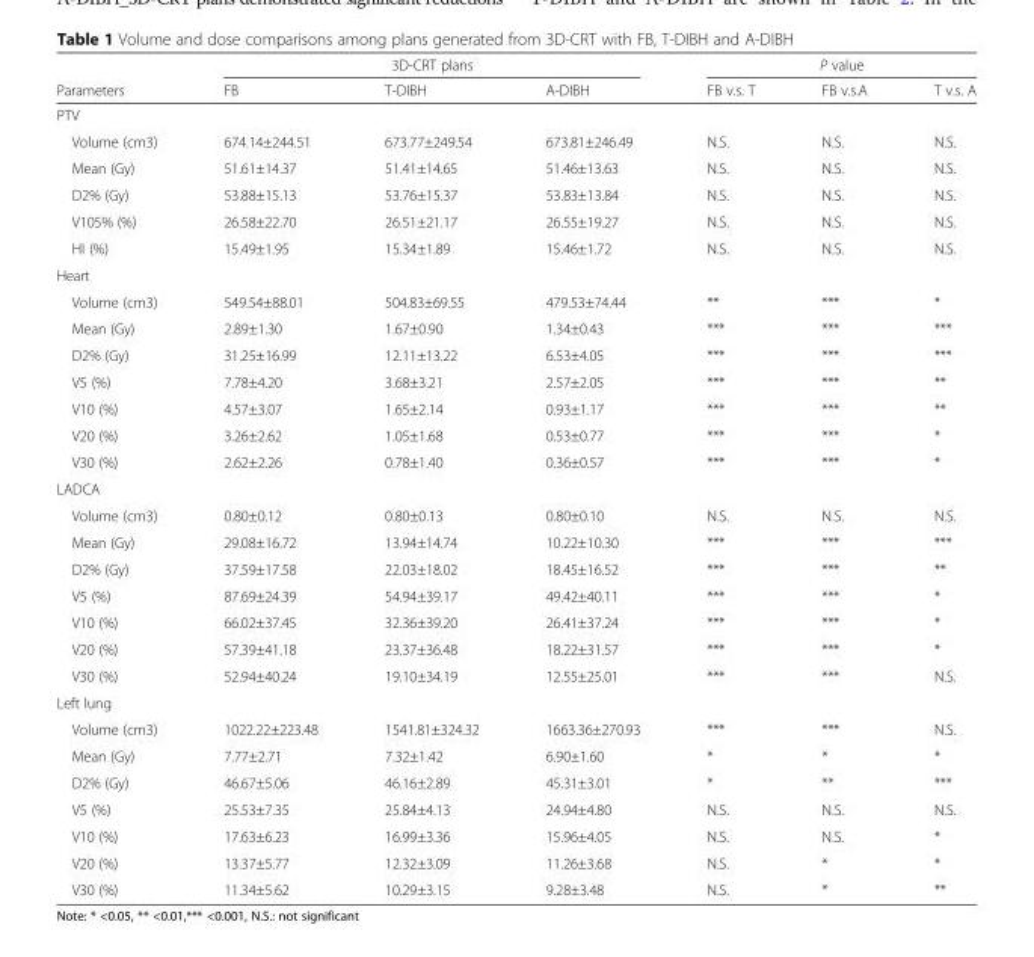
<table><thead><tr><td rowspan="2">Parameters</td><td colspan="3">3D-CRT plans</td><td colspan="3">P value</td></tr><tr><td>FB</td><td>T-DIBH</td><td>A-DIBH</td><td>FB v.s. T</td><td>FB v.s.A</td><td>T v.s. A</td></tr></thead><tbody><tr><td colspan="7">PTV</td></tr><tr><td>Volume (cm3)</td><td>674.14±244.51</td><td>673.77±249.54</td><td>673.81±246.49</td><td>N.S.</td><td>N.S.</td><td>N.S.</td></tr><tr><td>Mean (Gy)</td><td>51.61±14.37</td><td>51.41±14.65</td><td>51.46±13.63</td><td>N.S.</td><td>N.S.</td><td>N.S.</td></tr><tr><td>D2% (Gy)</td><td>53.88±15.13</td><td>53.76±15.37</td><td>53.83±13.84</td><td>N.S.</td><td>N.S.</td><td>N.S.</td></tr><tr><td>V105% (%)</td><td>26.58±22.70</td><td>26.51±21.17</td><td>26.55±19.27</td><td>N.S.</td><td>N.S.</td><td>N.S.</td></tr><tr><td>HI (%)</td><td>15.49±1.95</td><td>15.34±1.89</td><td>15.46±1.72</td><td>N.S.</td><td>N.S.</td><td>N.S.</td></tr><tr><td colspan="7">Heart</td></tr><tr><td>Volume (cm3)</td><td>549.54±88.01</td><td>504.83±69.55</td><td>479.53±74.44</td><td>**</td><td>***</td><td>*</td></tr><tr><td>Mean (Gy)</td><td>2.89±1.30</td><td>1.67±0.90</td><td>1.34±0.43</td><td>***</td><td>***</td><td>***</td></tr><tr><td>D2% (Gy)</td><td>31.25±16.99</td><td>12.11±13.22</td><td>6.53±4.05</td><td>***</td><td>***</td><td>***</td></tr><tr><td>V5 (%)</td><td>7.78±4.20</td><td>3.68±3.21</td><td>2.57±2.05</td><td>***</td><td>***</td><td>**</td></tr><tr><td>V10 (%)</td><td>4.57±3.07</td><td>1.65±2.14</td><td>0.93±1.17</td><td>***</td><td>***</td><td>**</td></tr><tr><td>V20 (%)</td><td>3.26±2.62</td><td>1.05±1.68</td><td>0.53±0.77</td><td>***</td><td>***</td><td>*</td></tr><tr><td>V30 (%)</td><td>2.62±2.26</td><td>0.78±1.40</td><td>0.36±0.57</td><td>***</td><td>***</td><td>*</td></tr><tr><td colspan="7">LADCA</td></tr><tr><td>Volume (cm3)</td><td>0.80±0.12</td><td>0.80±0.13</td><td>0.80±0.10</td><td>N.S.</td><td>N.S.</td><td>N.S.</td></tr><tr><td>Mean (Gy)</td><td>29.08±16.72</td><td>13.94±14.74</td><td>10.22±10.30</td><td>***</td><td>***</td><td>***</td></tr><tr><td>D2% (Gy)</td><td>37.59±17.58</td><td>22.03±18.02</td><td>18.45±16.52</td><td>***</td><td>***</td><td>**</td></tr><tr><td>V5 (%)</td><td>87.69±24.39</td><td>54.94±39.17</td><td>49.42±40.11</td><td>***</td><td>***</td><td>*</td></tr><tr><td>V10 (%)</td><td>66.02±37.45</td><td>32.36±39.20</td><td>26.41±37.24</td><td>***</td><td>***</td><td>*</td></tr><tr><td>V20 (%)</td><td>57.39±41.18</td><td>23.37±36.48</td><td>18.22±31.57</td><td>***</td><td>***</td><td>*</td></tr><tr><td>V30 (%)</td><td>52.94±40.24</td><td>19.10±34.19</td><td>12.55±25.01</td><td>***</td><td>***</td><td>N.S.</td></tr><tr><td colspan="7">Left lung</td></tr><tr><td>Volume (cm3)</td><td>1022.22±223.48</td><td>1541.81±324.32</td><td>1663.36±270.93</td><td>***</td><td>***</td><td>N.S.</td></tr><tr><td>Mean (Gy)</td><td>7.77±2.71</td><td>7.32±1.42</td><td>6.90±1.60</td><td>*</td><td>*</td><td>*</td></tr><tr><td>D2% (Gy)</td><td>46.67±5.06</td><td>46.16±2.89</td><td>45.31±3.01</td><td>*</td><td>**</td><td>***</td></tr><tr><td>V5 (%)</td><td>25.53±7.35</td><td>25.84±4.13</td><td>24.94±4.80</td><td>N.S.</td><td>N.S.</td><td>N.S.</td></tr><tr><td>V10 (%)</td><td>17.63±6.23</td><td>16.99±3.36</td><td>15.96±4.05</td><td>N.S.</td><td>N.S.</td><td>*</td></tr><tr><td>V20 (%)</td><td>13.37±5.77</td><td>12.32±3.09</td><td>11.26±3.68</td><td>N.S.</td><td>*</td><td>*</td></tr><tr><td>V30 (%)</td><td>11.34±5.62</td><td>10.29±3.15</td><td>9.28±3.48</td><td>N.S.</td><td>*</td><td>**</td></tr></tbody></table>